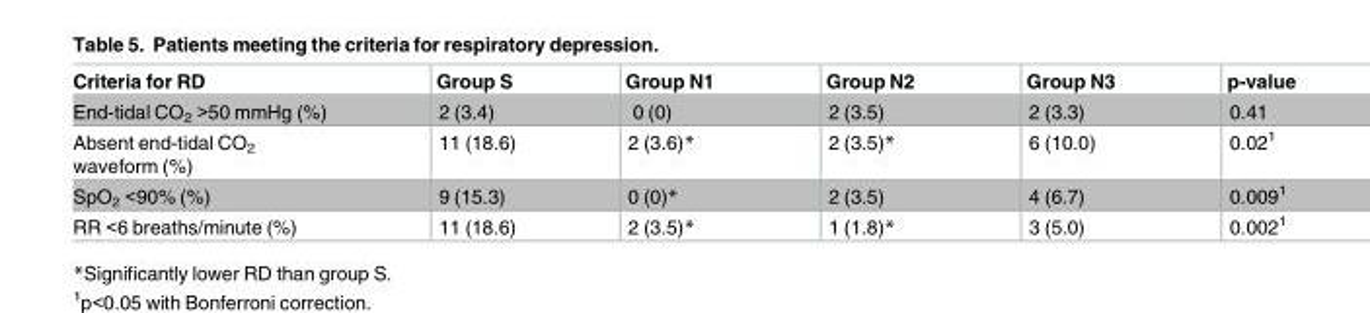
<table><thead><tr><td>Criteria for RD</td><td>Group S</td><td>Group N1</td><td>Group N2</td><td>Group N3</td><td>p-value</td></tr></thead><tbody><tr><td>End-tidal CO<sub>2</sub> &gt;50 mmHg (%)</td><td>2 (3.4)</td><td>0 (0)</td><td>2 (3.5)</td><td>2 (3.3)</td><td>0.41</td></tr><tr><td>Absent end-tidal CO<sub>2</sub> waveform (%)</td><td>11 (18.6)</td><td>2 (3.6)*</td><td>2 (3.5)*</td><td>6 (10.0)</td><td>0.02<sup>1</sup></td></tr><tr><td>SpO<sub>2</sub> &lt;90% (%)</td><td>9 (15.3)</td><td>0 (0)*</td><td>2 (3.5)</td><td>4 (6.7)</td><td>0.009<sup>1</sup></td></tr><tr><td>RR &lt;6 breaths/minute (%)</td><td>11 (18.6)</td><td>2 (3.5)*</td><td>1 (1.8)*</td><td>3 (5.0)</td><td>0.002<sup>1</sup></td></tr></tbody></table>